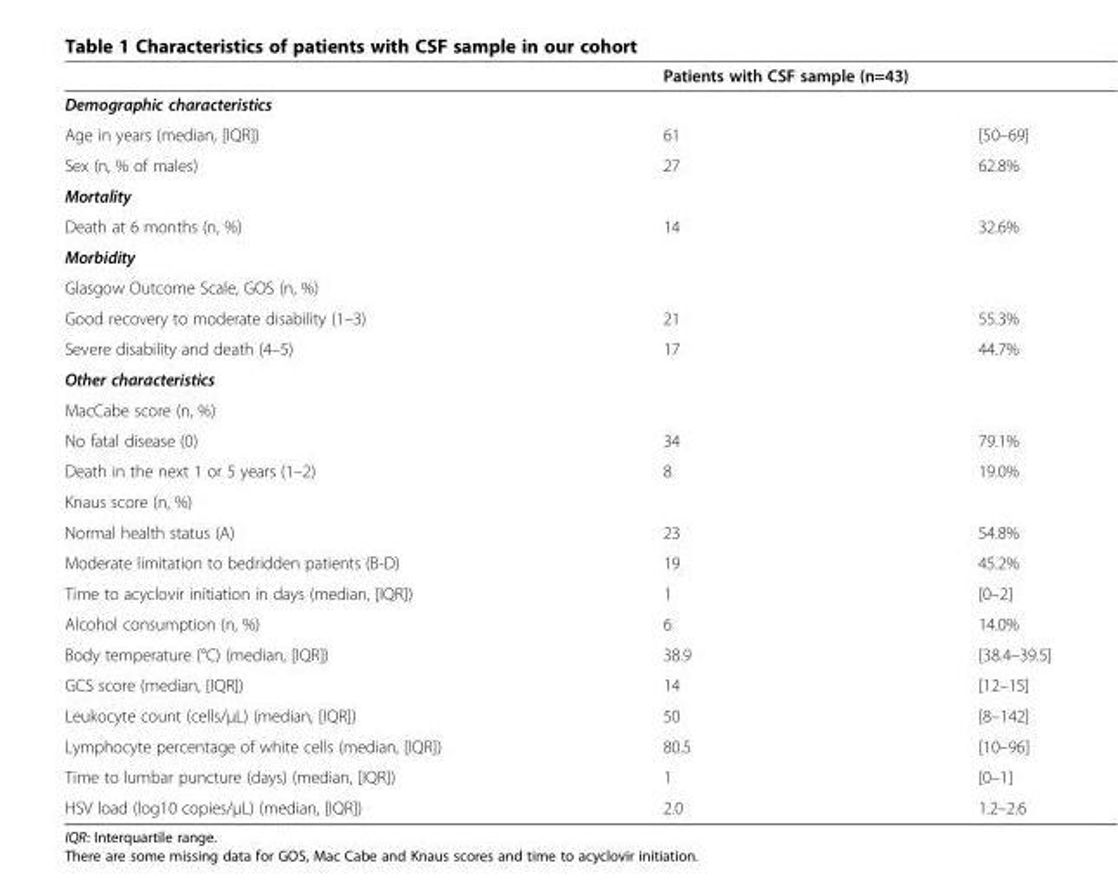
<table><thead><tr><td></td><td colspan="2">Patients with CSF sample (n=43)</td></tr><tr><td colspan="3">Demographic characteristics</td></tr><tr><td>Age in years (median, [IQR])</td><td>61</td><td>[50–69]</td></tr></thead><tbody><tr><td>Sex (n, % of males)</td><td>27</td><td>62.8%</td></tr><tr><td colspan="3">Mortality</td></tr><tr><td>Death at 6 months (n, %)</td><td>14</td><td>32.6%</td></tr><tr><td colspan="3">Morbidity</td></tr><tr><td colspan="3">Glasgow Outcome Scale, GOS (n, %)</td></tr><tr><td>Good recovery to moderate disability (1–3)</td><td>21</td><td>55.3%</td></tr><tr><td>Severe disability and death (4–5)</td><td>17</td><td>44.7%</td></tr><tr><td colspan="3">Other characteristics</td></tr><tr><td colspan="3">MacCabe score (n, %)</td></tr><tr><td>No fatal disease (0)</td><td>34</td><td>79.1%</td></tr><tr><td>Death in the next 1 or 5 years (1–2)</td><td>8</td><td>19.0%</td></tr><tr><td colspan="3">Knaus score (n, %)</td></tr><tr><td>Normal health status (A)</td><td>23</td><td>54.8%</td></tr><tr><td>Moderate limitation to bedridden patients (B-D)</td><td>19</td><td>45.2%</td></tr><tr><td>Time to acyclovir initiation in days (median, [IQR])</td><td>1</td><td>[0–2]</td></tr><tr><td>Alcohol consumption (n, %)</td><td>6</td><td>14.0%</td></tr><tr><td>Body temperature (°C) (median, [IQR])</td><td>38.9</td><td>[38.4–39.5]</td></tr><tr><td>GCS score (median, [IQR])</td><td>14</td><td>[12–15]</td></tr><tr><td>Leukocyte count (cells/μL) (median, [IQR])</td><td>50</td><td>[8–142]</td></tr><tr><td>Lymphocyte percentage of white cells (median, [IQR])</td><td>80.5</td><td>[10–96]</td></tr><tr><td>Time to lumbar puncture (days) (median, [IQR])</td><td>1</td><td>[0–1]</td></tr><tr><td>HSV load (log10 copies/μL) (median, [IQR])</td><td>2.0</td><td>1.2–2.6</td></tr></tbody></table>